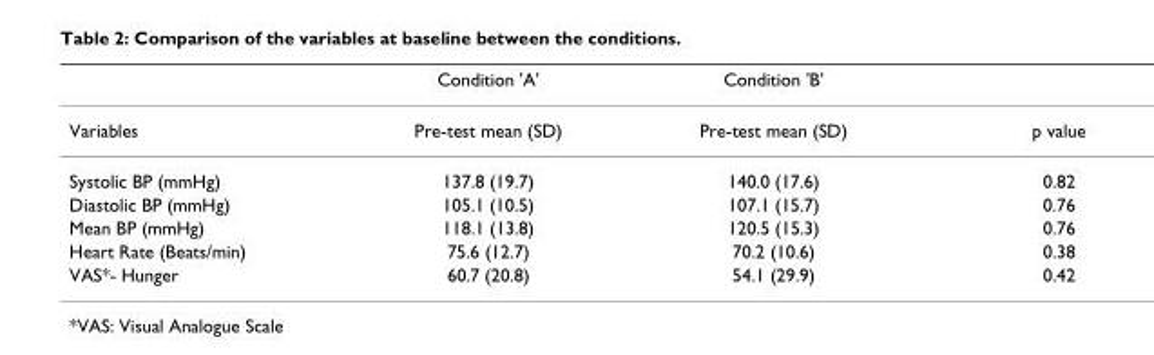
<table><thead><tr><td></td><td>Condition &#x27;A&#x27;</td><td>Condition &#x27;B&#x27;</td><td></td></tr></thead><tbody><tr><td>Variables</td><td>Pre-test mean (SD)</td><td>Pre-test mean (SD)</td><td>p value</td></tr><tr><td>Systolic BP (mmHg)</td><td>137.8 (19.7)</td><td>140.0 (17.6)</td><td>0.82</td></tr><tr><td>Diastolic BP (mmHg)</td><td>105.1 (10.5)</td><td>107.1 (15.7)</td><td>0.76</td></tr><tr><td>Mean BP (mmHg)</td><td>118.1 (13.8)</td><td>120.5 (15.3)</td><td>0.76</td></tr><tr><td>Heart Rate (Beats/min)</td><td>75.6 (12.7)</td><td>70.2 (10.6)</td><td>0.38</td></tr><tr><td>VAS*- Hunger</td><td>60.7 (20.8)</td><td>54.1 (29.9)</td><td>0.42</td></tr></tbody></table>